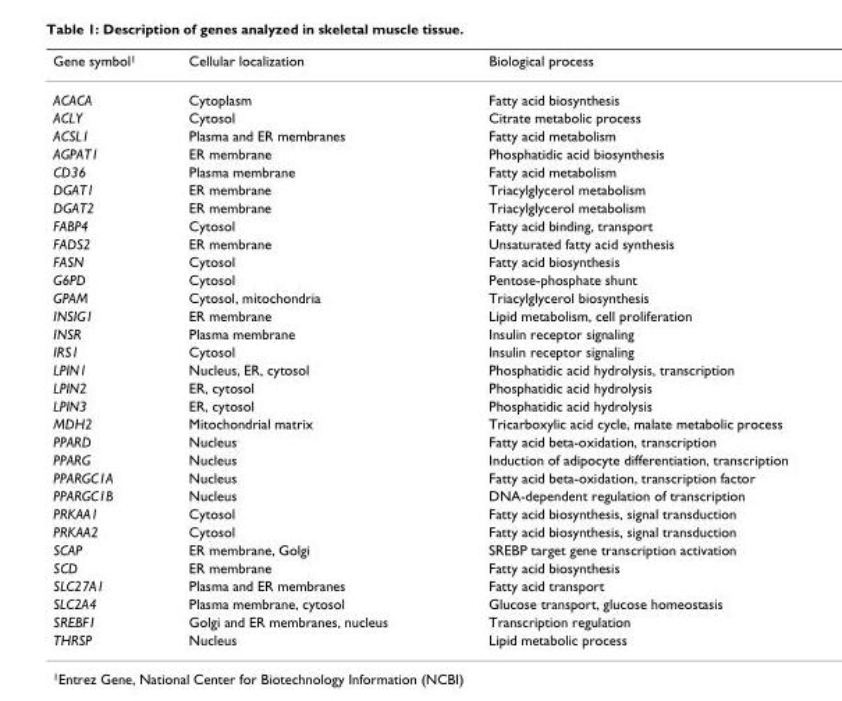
<table><thead><tr><td>Gene symbol<sup>1</sup></td><td>Cellular localization</td><td>Biological process</td></tr></thead><tbody><tr><td>ACACA</td><td>Cytoplasm</td><td>Fatty acid biosynthesis</td></tr><tr><td>ACLY</td><td>Cytosol</td><td>Citrate metabolic process</td></tr><tr><td>ACSL1</td><td>Plasma and ER membranes</td><td>Fatty acid metabolism</td></tr><tr><td>AGPAT1</td><td>ER membrane</td><td>Phosphatidic acid biosynthesis</td></tr><tr><td>CD36</td><td>Plasma membrane</td><td>Fatty acid metabolism</td></tr><tr><td>DGAT1</td><td>ER membrane</td><td>Triacylglycerol metabolism</td></tr><tr><td>DGAT2</td><td>ER membrane</td><td>Triacylglycerol metabolism</td></tr><tr><td>FABP4</td><td>Cytosol</td><td>Fatty acid binding, transport</td></tr><tr><td>FADS2</td><td>ER membrane</td><td>Unsaturated fatty acid synthesis</td></tr><tr><td>FASN</td><td>Cytosol</td><td>Fatty acid biosynthesis</td></tr><tr><td>G6PD</td><td>Cytosol</td><td>Pentose-phosphate shunt</td></tr><tr><td>GPAM</td><td>Cytosol, mitochondria</td><td>Triacylglycerol biosynthesis</td></tr><tr><td>INSIG1</td><td>ER membrane</td><td>Lipid metabolism, cell proliferation</td></tr><tr><td>INSR</td><td>Plasma membrane</td><td>Insulin receptor signaling</td></tr><tr><td>IRS1</td><td>Cytosol</td><td>Insulin receptor signaling</td></tr><tr><td>LPIN1</td><td>Nucleus, ER, cytosol</td><td>Phosphatidic acid hydrolysis, transcription</td></tr><tr><td>LPIN2</td><td>ER, cytosol</td><td>Phosphatidic acid hydrolysis</td></tr><tr><td>LPIN3</td><td>ER, cytosol</td><td>Phosphatidic acid hydrolysis</td></tr><tr><td>MDH2</td><td>Mitochondrial matrix</td><td>Tricarboxylic acid cycle, malate metabolic process</td></tr><tr><td>PPARD</td><td>Nucleus</td><td>Fatty acid beta-oxidation, transcription</td></tr><tr><td>PPARG</td><td>Nucleus</td><td>Induction of adipocyte differentiation, transcription</td></tr><tr><td>PPARGC1A</td><td>Nucleus</td><td>Fatty acid beta-oxidation, transcription factor</td></tr><tr><td>PPARGC1B</td><td>Nucleus</td><td>DNA-dependent regulation of transcription</td></tr><tr><td>PRKAA1</td><td>Cytosol</td><td>Fatty acid biosynthesis, signal transduction</td></tr><tr><td>PRKAA2</td><td>Cytosol</td><td>Fatty acid biosynthesis, signal transduction</td></tr><tr><td>SCAP</td><td>ER membrane, Golgi</td><td>SREBP target gene transcription activation</td></tr><tr><td>SCD</td><td>ER membrane</td><td>Fatty acid biosynthesis</td></tr><tr><td>SLC27A1</td><td>Plasma and ER membranes</td><td>Fatty acid transport</td></tr><tr><td>SLC2A4</td><td>Plasma membrane, cytosol</td><td>Glucose transport, glucose homeostasis</td></tr><tr><td>SREBF1</td><td>Golgi and ER membranes, nucleus</td><td>Transcription regulation</td></tr><tr><td>THRSP</td><td>Nucleus</td><td>Lipid metabolic process</td></tr></tbody></table>